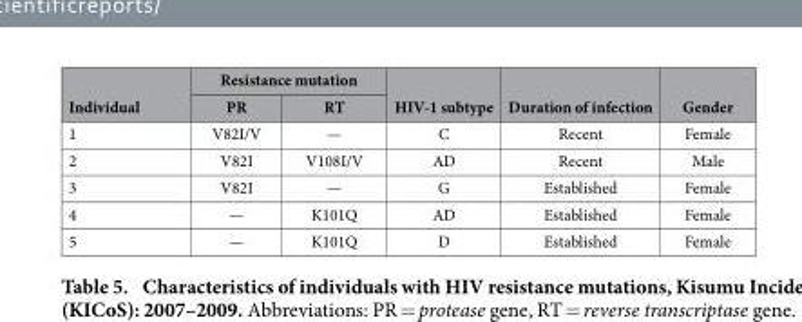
<table><thead><tr><td rowspan="2">Individual</td><td colspan="2">Resistance mutation</td><td rowspan="2">HIV-1 subtype</td><td rowspan="2">Duration of infection</td><td rowspan="2">Gender</td></tr><tr><td>PR</td><td>RT</td></tr></thead><tbody><tr><td>1</td><td>V82I/V</td><td>—</td><td>C</td><td>Recent</td><td>Female</td></tr><tr><td>2</td><td>V82I</td><td>V108I/V</td><td>AD</td><td>Recent</td><td>Male</td></tr><tr><td>3</td><td>V82I</td><td>—</td><td>G</td><td>Established</td><td>Female</td></tr><tr><td>4</td><td>—</td><td>K101Q</td><td>AD</td><td>Established</td><td>Female</td></tr><tr><td>5</td><td>—</td><td>K101Q</td><td>D</td><td>Established</td><td>Female</td></tr></tbody></table>